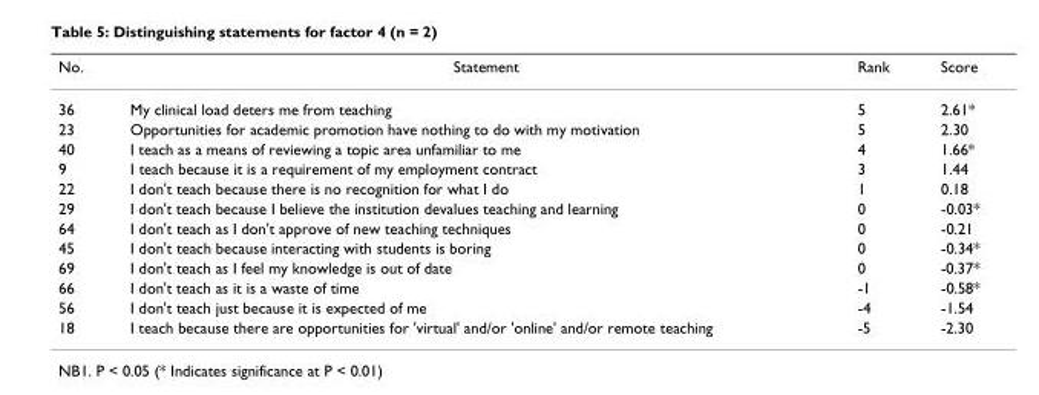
<table><thead><tr><td>No.</td><td>Statement</td><td>Rank</td><td>Score</td></tr></thead><tbody><tr><td>36</td><td>My clinical load deters me from teaching</td><td>5</td><td>2.61*</td></tr><tr><td>23</td><td>Opportunities for academic promotion have nothing to do with my motivation</td><td>5</td><td>2.30</td></tr><tr><td>40</td><td>I teach as a means of reviewing a topic area unfamiliar to me</td><td>4</td><td>1.66*</td></tr><tr><td>9</td><td>I teach because it is a requirement of my employment contract</td><td>3</td><td>1.44</td></tr><tr><td>22</td><td>I don&#x27;t teach because there is no recognition for what I do</td><td>1</td><td>0.18</td></tr><tr><td>29</td><td>I don&#x27;t teach because I believe the institution devalues teaching and learning</td><td>0</td><td>-0.03*</td></tr><tr><td>64</td><td>I don&#x27;t teach as I don&#x27;t approve of new teaching techniques</td><td>0</td><td>-0.21</td></tr><tr><td>45</td><td>I don&#x27;t teach because interacting with students is boring</td><td>0</td><td>-0.34*</td></tr><tr><td>69</td><td>I don&#x27;t teach as I feel my knowledge is out of date</td><td>0</td><td>-0.37*</td></tr><tr><td>66</td><td>I don&#x27;t teach as it is a waste of time</td><td>-1</td><td>-0.58*</td></tr><tr><td>56</td><td>I don&#x27;t teach just because it is expected of me</td><td>-4</td><td>-1.54</td></tr><tr><td>18</td><td>I teach because there are opportunities for &#x27;virtual&#x27; and/or &#x27;online&#x27; and/or remote teaching</td><td>-5</td><td>-2.30</td></tr></tbody></table>